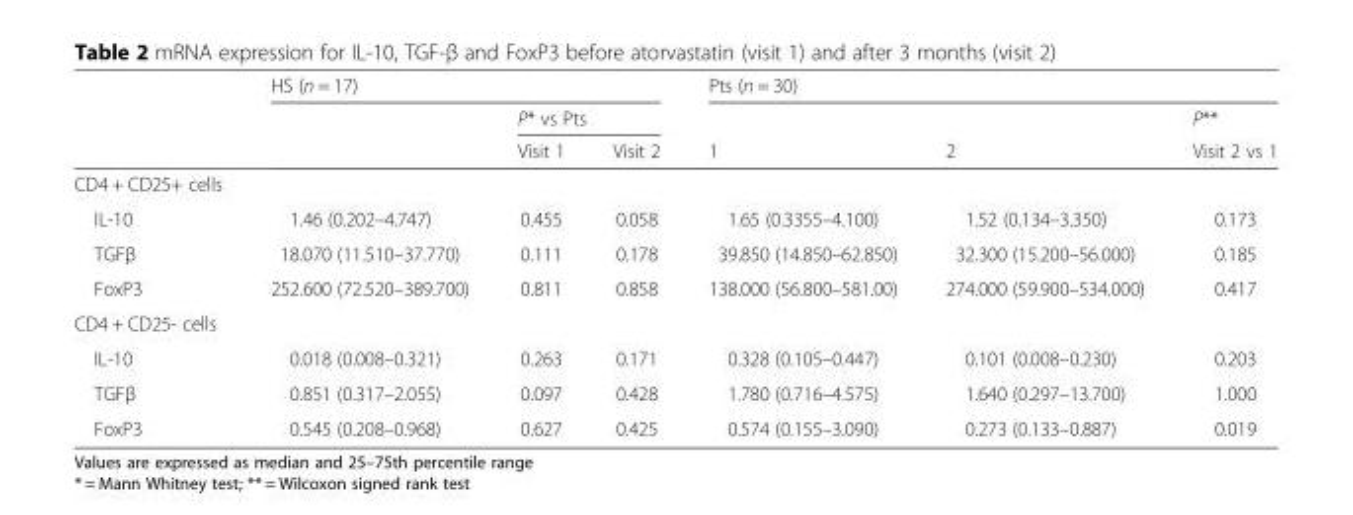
<table><thead><tr><td rowspan="3"></td><td colspan="3">HS (n = 17)</td><td colspan="3">Pts (n = 30)</td></tr><tr><td rowspan="2"></td><td colspan="2">P* vs Pts</td><td rowspan="2">1</td><td rowspan="2">2</td><td rowspan="2">P** Visit 2 vs 1</td></tr><tr><td>Visit 1</td><td>Visit 2</td></tr></thead><tbody><tr><td colspan="7">CD4 + CD25+ cells</td></tr><tr><td>IL-10</td><td>1.46 (0.202–4.747)</td><td>0.455</td><td>0.058</td><td>1.65 (0.3355–4.100)</td><td>1.52 (0.134–3.350)</td><td>0.173</td></tr><tr><td>TGFβ</td><td>18.070 (11.510–37.770)</td><td>0.111</td><td>0.178</td><td>39.850 (14.850–62.850)</td><td>32.300 (15.200–56.000)</td><td>0.185</td></tr><tr><td>FoxP3</td><td>252.600 (72.520–389.700)</td><td>0.811</td><td>0.858</td><td>138.000 (56.800–581.00)</td><td>274.000 (59.900–534.000)</td><td>0.417</td></tr><tr><td colspan="7">CD4 + CD25- cells</td></tr><tr><td>IL-10</td><td>0.018 (0.008–0.321)</td><td>0.263</td><td>0.171</td><td>0.328 (0.105–0.447)</td><td>0.101 (0.008–0.230)</td><td>0.203</td></tr><tr><td>TGFβ</td><td>0.851 (0.317–2.055)</td><td>0.097</td><td>0.428</td><td>1.780 (0.716–4.575)</td><td>1.640 (0.297–13.700)</td><td>1.000</td></tr><tr><td>FoxP3</td><td>0.545 (0.208–0.968)</td><td>0.627</td><td>0.425</td><td>0.574 (0.155–3.090)</td><td>0.273 (0.133–0.887)</td><td>0.019</td></tr></tbody></table>